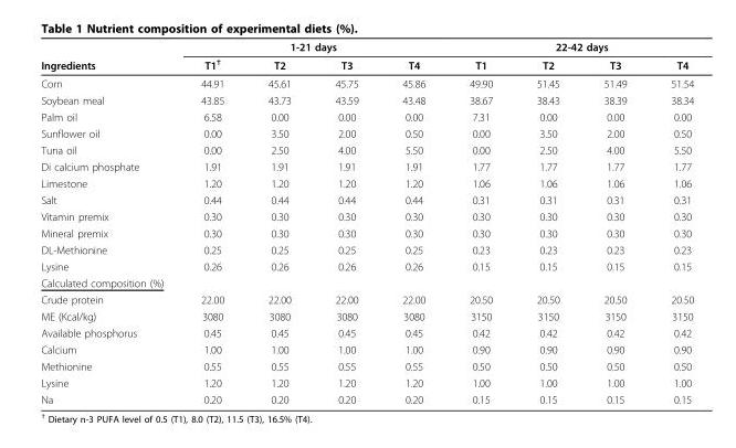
<table><thead><tr><td rowspan="2">Ingredients</td><td colspan="4">1-21 days</td><td colspan="4">22-42 days</td></tr><tr><td>T1<sup>†</sup></td><td>T2</td><td>T3</td><td>T4</td><td>T1</td><td>T2</td><td>T3</td><td>T4</td></tr></thead><tbody><tr><td>Corn</td><td>44.91</td><td>45.61</td><td>45.75</td><td>45.86</td><td>49.90</td><td>51.45</td><td>51.49</td><td>51.54</td></tr><tr><td>Soybean meal</td><td>43.85</td><td>43.73</td><td>43.59</td><td>43.48</td><td>38.67</td><td>38.43</td><td>38.39</td><td>38.34</td></tr><tr><td>Palm oil</td><td>6.58</td><td>0.00</td><td>0.00</td><td>0.00</td><td>7.31</td><td>0.00</td><td>0.00</td><td>0.00</td></tr><tr><td>Sunflower oil</td><td>0.00</td><td>3.50</td><td>2.00</td><td>0.50</td><td>0.00</td><td>3.50</td><td>2.00</td><td>0.50</td></tr><tr><td>Tuna oil</td><td>0.00</td><td>2.50</td><td>4.00</td><td>5.50</td><td>0.00</td><td>2.50</td><td>4.00</td><td>5.50</td></tr><tr><td>Di calcium phosphate</td><td>1.91</td><td>1.91</td><td>1.91</td><td>1.91</td><td>1.77</td><td>1.77</td><td>1.77</td><td>1.77</td></tr><tr><td>Limestone</td><td>1.20</td><td>1.20</td><td>1.20</td><td>1.20</td><td>1.06</td><td>1.06</td><td>1.06</td><td>1.06</td></tr><tr><td>Salt</td><td>0.44</td><td>0.44</td><td>0.44</td><td>0.44</td><td>0.31</td><td>0.31</td><td>0.31</td><td>0.31</td></tr><tr><td>Vitamin premix</td><td>0.30</td><td>0.30</td><td>0.30</td><td>0.30</td><td>0.30</td><td>0.30</td><td>0.30</td><td>0.30</td></tr><tr><td>Mineral premix</td><td>0.30</td><td>0.30</td><td>0.30</td><td>0.30</td><td>0.30</td><td>0.30</td><td>0.30</td><td>0.30</td></tr><tr><td>DL-Methionine</td><td>0.25</td><td>0.25</td><td>0.25</td><td>0.25</td><td>0.23</td><td>0.23</td><td>0.23</td><td>0.23</td></tr><tr><td>Lysine</td><td>0.26</td><td>0.26</td><td>0.26</td><td>0.26</td><td>0.15</td><td>0.15</td><td>0.15</td><td>0.15</td></tr><tr><td colspan="9">Calculated composition (%)</td></tr><tr><td>Crude protein</td><td>22.00</td><td>22.00</td><td>22.00</td><td>22.00</td><td>20.50</td><td>20.50</td><td>20.50</td><td>20.50</td></tr><tr><td>ME (Kcal/kg)</td><td>3080</td><td>3080</td><td>3080</td><td>3080</td><td>3150</td><td>3150</td><td>3150</td><td>3150</td></tr><tr><td>Available phosphorus</td><td>0.45</td><td>0.45</td><td>0.45</td><td>0.45</td><td>0.42</td><td>0.42</td><td>0.42</td><td>0.42</td></tr><tr><td>Calcium</td><td>1.00</td><td>1.00</td><td>1.00</td><td>1.00</td><td>0.90</td><td>0.90</td><td>0.90</td><td>0.90</td></tr><tr><td>Methionine</td><td>0.55</td><td>0.55</td><td>0.55</td><td>0.55</td><td>0.50</td><td>0.50</td><td>0.50</td><td>0.50</td></tr><tr><td>Lysine</td><td>1.20</td><td>1.20</td><td>1.20</td><td>1.20</td><td>1.00</td><td>1.00</td><td>1.00</td><td>1.00</td></tr><tr><td>Na</td><td>0.20</td><td>0.20</td><td>0.20</td><td>0.20</td><td>0.15</td><td>0.15</td><td>0.15</td><td>0.15</td></tr></tbody></table>